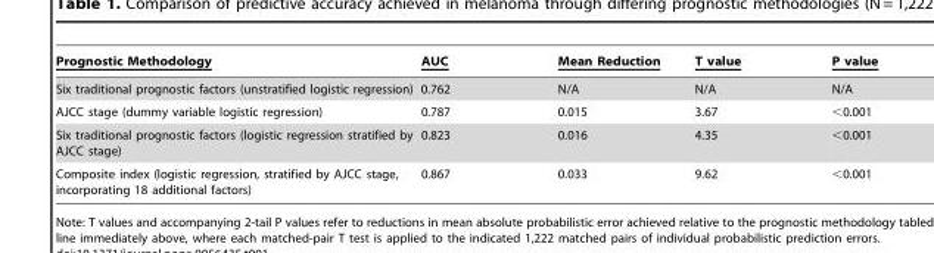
<table><thead><tr><td>Prognostic Methodology</td><td>AUC</td><td>Mean Reduction</td><td>T value</td><td>P value</td></tr></thead><tbody><tr><td>Six traditional prognostic factors (unstratified logistic regression)</td><td>0.762</td><td>N/A</td><td>N/A</td><td>N/A</td></tr><tr><td>AJCC stage (dummy variable logistic regression)</td><td>0.787</td><td>0.015</td><td>3.67</td><td>&lt;0.001</td></tr><tr><td>Six traditional prognostic factors (logistic regression stratified by AJCC stage)</td><td>0.823</td><td>0.016</td><td>4.35</td><td>&lt;0.001</td></tr><tr><td>Composite index (logistic regression, stratified by AJCC stage, incorporating 18 additional factors)</td><td>0.867</td><td>0.033</td><td>9.62</td><td>&lt;0.001</td></tr></tbody></table>